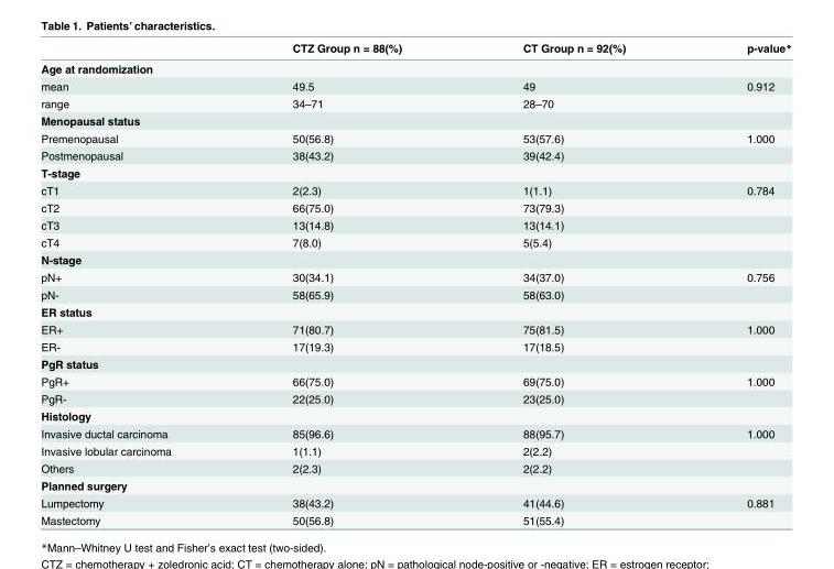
<table><thead><tr><td></td><td>CTZ Group n = 88(%)</td><td>CT Group n = 92(%)</td><td>p-value*</td></tr></thead><tbody><tr><td colspan="4">Age at randomization</td></tr><tr><td>mean</td><td>49.5</td><td>49</td><td>0.912</td></tr><tr><td>range</td><td>34–71</td><td>28–70</td><td></td></tr><tr><td colspan="4">Menopausal status</td></tr><tr><td>Premenopausal</td><td>50(56.8)</td><td>53(57.6)</td><td>1.000</td></tr><tr><td>Postmenopausal</td><td>38(43.2)</td><td>39(42.4)</td><td></td></tr><tr><td colspan="4">T-stage</td></tr><tr><td>cT1</td><td>2(2.3)</td><td>1(1.1)</td><td>0.784</td></tr><tr><td>cT2</td><td>66(75.0)</td><td>73(79.3)</td><td></td></tr><tr><td>cT3</td><td>13(14.8)</td><td>13(14.1)</td><td></td></tr><tr><td>cT4</td><td>7(8.0)</td><td>5(5.4)</td><td></td></tr><tr><td colspan="4">N-stage</td></tr><tr><td>pN+</td><td>30(34.1)</td><td>34(37.0)</td><td>0.756</td></tr><tr><td>pN-</td><td>58(65.9)</td><td>58(63.0)</td><td></td></tr><tr><td colspan="4">ER status</td></tr><tr><td>ER+</td><td>71(80.7)</td><td>75(81.5)</td><td>1.000</td></tr><tr><td>ER-</td><td>17(19.3)</td><td>17(18.5)</td><td></td></tr><tr><td colspan="4">PgR status</td></tr><tr><td>PgR+</td><td>66(75.0)</td><td>69(75.0)</td><td>1.000</td></tr><tr><td>PgR-</td><td>22(25.0)</td><td>23(25.0)</td><td></td></tr><tr><td colspan="4">Histology</td></tr><tr><td>Invasive ductal carcinoma</td><td>85(96.6)</td><td>88(95.7)</td><td>1.000</td></tr><tr><td>Invasive lobular carcinoma</td><td>1(1.1)</td><td>2(2.2)</td><td></td></tr><tr><td>Others</td><td>2(2.3)</td><td>2(2.2)</td><td></td></tr><tr><td colspan="4">Planned surgery</td></tr><tr><td>Lumpectomy</td><td>38(43.2)</td><td>41(44.6)</td><td>0.881</td></tr><tr><td>Mastectomy</td><td>50(56.8)</td><td>51(55.4)</td><td></td></tr></tbody></table>